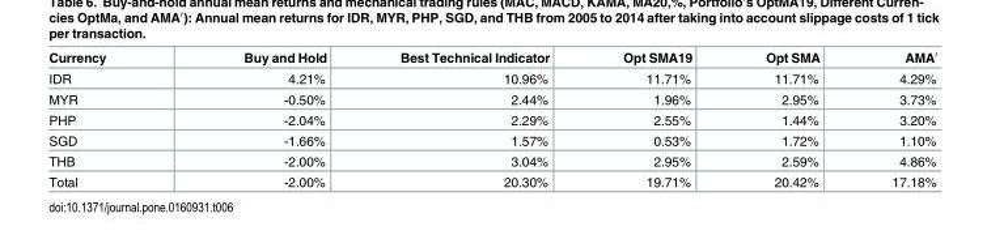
<table><thead><tr><td>Currency</td><td>Buy and Hold</td><td>Best Technical Indicator</td><td>Opt SMA19</td><td>Opt SMA</td><td>AMA′</td></tr></thead><tbody><tr><td>IDR</td><td>4.21%</td><td>10.96%</td><td>11.71%</td><td>11.71%</td><td>4.29%</td></tr><tr><td>MYR</td><td>-0.50%</td><td>2.44%</td><td>1.96%</td><td>2.95%</td><td>3.73%</td></tr><tr><td>PHP</td><td>-2.04%</td><td>2.29%</td><td>2.55%</td><td>1.44%</td><td>3.20%</td></tr><tr><td>SGD</td><td>-1.66%</td><td>1.57%</td><td>0.53%</td><td>1.72%</td><td>1.10%</td></tr><tr><td>THB</td><td>-2.00%</td><td>3.04%</td><td>2.95%</td><td>2.59%</td><td>4.86%</td></tr><tr><td>Total</td><td>-2.00%</td><td>20.30%</td><td>19.71%</td><td>20.42%</td><td>17.18%</td></tr></tbody></table>